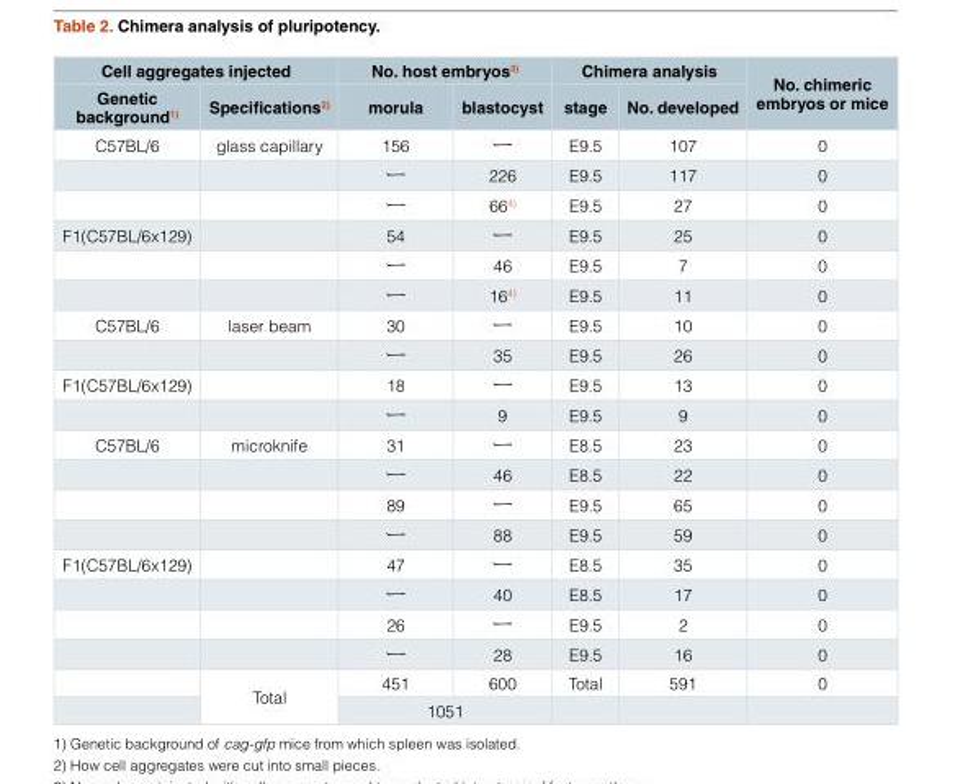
<table><thead><tr><td colspan="2">Cell aggregates injected</td><td colspan="2">No. host embryos<sup>3)</sup></td><td colspan="2">Chimera analysis</td><td rowspan="2">No. chimeric embryos or mice</td></tr><tr><td>Genetic background<sup>1)</sup></td><td>Specifications<sup>2)</sup></td><td>morula</td><td>blastocyst</td><td>stage</td><td>No. developed</td></tr></thead><tbody><tr><td rowspan="3">C57BL/6</td><td>glass capillary</td><td>156</td><td>ー</td><td>E9.5</td><td>107</td><td>0</td></tr><tr><td></td><td>ー</td><td>226</td><td>E9.5</td><td>117</td><td>0</td></tr><tr><td></td><td>ー</td><td>66<sup>4)</sup></td><td>E9.5</td><td>27</td><td>0</td></tr><tr><td rowspan="3">F1(C57BL/6x129)</td><td></td><td>54</td><td>ー</td><td>E9.5</td><td>25</td><td>0</td></tr><tr><td></td><td>ー</td><td>46</td><td>E9.5</td><td>7</td><td>0</td></tr><tr><td></td><td>ー</td><td>16<sup>4)</sup></td><td>E9.5</td><td>11</td><td>0</td></tr><tr><td rowspan="2">C57BL/6</td><td>laser beam</td><td>30</td><td>ー</td><td>E9.5</td><td>10</td><td>0</td></tr><tr><td></td><td>ー</td><td>35</td><td>E9.5</td><td>26</td><td>0</td></tr><tr><td rowspan="2">F1(C57BL/6x129)</td><td></td><td>18</td><td>ー</td><td>E9.5</td><td>13</td><td>0</td></tr><tr><td></td><td>ー</td><td>9</td><td>E9.5</td><td>9</td><td>0</td></tr><tr><td rowspan="4">C57BL/6</td><td>microknife</td><td>31</td><td>ー</td><td>E8.5</td><td>23</td><td>0</td></tr><tr><td></td><td>ー</td><td>46</td><td>E8.5</td><td>22</td><td>0</td></tr><tr><td></td><td>89</td><td>ー</td><td>E9.5</td><td>65</td><td>0</td></tr><tr><td></td><td>ー</td><td>88</td><td>E9.5</td><td>59</td><td>0</td></tr><tr><td rowspan="6">F1(C57BL/6x129)</td><td></td><td>47</td><td>ー</td><td>E8.5</td><td>35</td><td>0</td></tr><tr><td></td><td>ー</td><td>40</td><td>E8.5</td><td>17</td><td>0</td></tr><tr><td></td><td>26</td><td>ー</td><td>E9.5</td><td>2</td><td>0</td></tr><tr><td></td><td>ー</td><td>28</td><td>E9.5</td><td>16</td><td>0</td></tr><tr><td rowspan="2">Total</td><td>451</td><td>600</td><td>Total</td><td>591</td><td>0</td></tr><tr><td colspan="2">1051</td><td></td><td></td><td></td></tr></tbody></table>